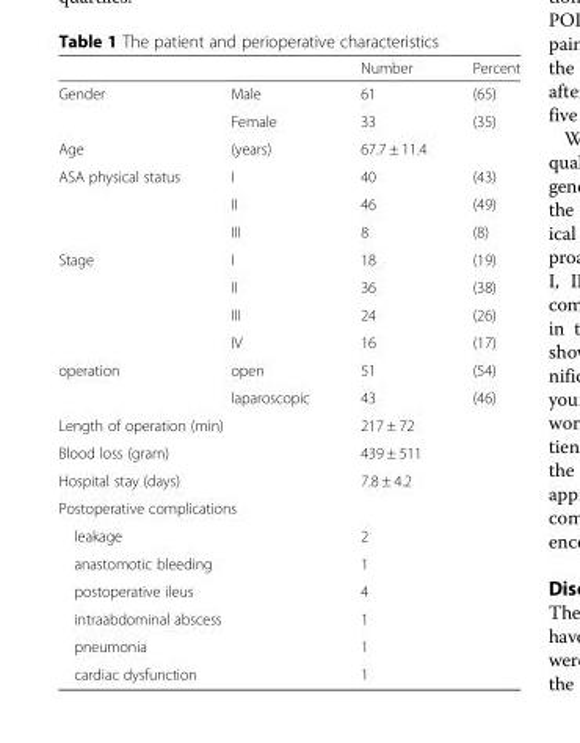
<table><thead><tr><td></td><td></td><td>Number</td><td>Percent</td></tr></thead><tbody><tr><td rowspan="2">Gender</td><td>Male</td><td>61</td><td>(65)</td></tr><tr><td>Female</td><td>33</td><td>(35)</td></tr><tr><td>Age</td><td>(years)</td><td colspan="2">67.7 ± 11.4</td></tr><tr><td rowspan="3">ASA physical status</td><td>I</td><td>40</td><td>(43)</td></tr><tr><td>II</td><td>46</td><td>(49)</td></tr><tr><td>III</td><td>8</td><td>(8)</td></tr><tr><td rowspan="4">Stage</td><td>I</td><td>18</td><td>(19)</td></tr><tr><td>II</td><td>36</td><td>(38)</td></tr><tr><td>III</td><td>24</td><td>(26)</td></tr><tr><td>IV</td><td>16</td><td>(17)</td></tr><tr><td rowspan="2">operation</td><td>open</td><td>51</td><td>(54)</td></tr><tr><td>laparoscopic</td><td>43</td><td>(46)</td></tr><tr><td colspan="2">Length of operation (min)</td><td>217 ± 72</td><td></td></tr><tr><td colspan="2">Blood loss (gram)</td><td>439 ± 511</td><td></td></tr><tr><td colspan="2">Hospital stay (days)</td><td>7.8 ± 4.2</td><td></td></tr><tr><td colspan="4">Postoperative complications</td></tr><tr><td>leakage</td><td></td><td>2</td><td></td></tr><tr><td colspan="2">anastomotic bleeding</td><td>1</td><td></td></tr><tr><td colspan="2">postoperative ileus</td><td>4</td><td></td></tr><tr><td colspan="2">intraabdominal abscess</td><td>1</td><td></td></tr><tr><td>pneumonia</td><td></td><td>1</td><td></td></tr><tr><td colspan="2">cardiac dysfunction</td><td>1</td><td></td></tr></tbody></table>